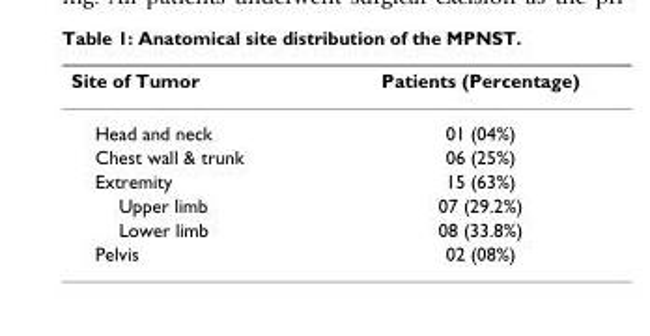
<table><thead><tr><td>Site of Tumor</td><td>Patients (Percentage)</td></tr></thead><tbody><tr><td>Head and neck</td><td>01 (04%)</td></tr><tr><td>Chest wall &amp; trunk</td><td>06 (25%)</td></tr><tr><td>Extremity</td><td>15 (63%)</td></tr><tr><td>Upper limb</td><td>07 (29.2%)</td></tr><tr><td>Lower limb</td><td>08 (33.8%)</td></tr><tr><td>Pelvis</td><td>02 (08%)</td></tr></tbody></table>